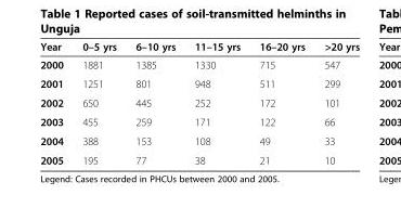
<table><thead><tr><td>Year</td><td>0–5 yrs</td><td>6–10 yrs</td><td>11–15 yrs</td><td>16–20 yrs</td><td>&gt;20 yrs</td></tr></thead><tbody><tr><td>2000</td><td>1881</td><td>1385</td><td>1330</td><td>715</td><td>547</td></tr><tr><td>2001</td><td>1251</td><td>801</td><td>948</td><td>511</td><td>299</td></tr><tr><td>2002</td><td>650</td><td>445</td><td>252</td><td>172</td><td>101</td></tr><tr><td>2003</td><td>455</td><td>259</td><td>171</td><td>122</td><td>66</td></tr><tr><td>2004</td><td>388</td><td>153</td><td>108</td><td>49</td><td>33</td></tr><tr><td>2005</td><td>195</td><td>77</td><td>38</td><td>21</td><td>10</td></tr></tbody></table>